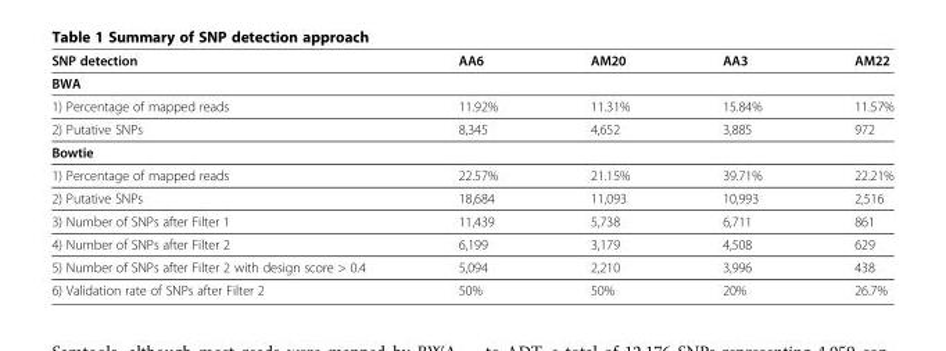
<table><thead><tr><td>SNP detection</td><td>AA6</td><td>AM20</td><td>AA3</td><td>AM22</td></tr></thead><tbody><tr><td colspan="5">BWA</td></tr><tr><td>1) Percentage of mapped reads</td><td>11.92%</td><td>11.31%</td><td>15.84%</td><td>11.57%</td></tr><tr><td>2) Putative SNPs</td><td>8,345</td><td>4,652</td><td>3,885</td><td>972</td></tr><tr><td colspan="5">Bowtie</td></tr><tr><td>1) Percentage of mapped reads</td><td>22.57%</td><td>21.15%</td><td>39.71%</td><td>22.21%</td></tr><tr><td>2) Putative SNPs</td><td>18,684</td><td>11,093</td><td>10,993</td><td>2,516</td></tr><tr><td>3) Number of SNPs after Filter 1</td><td>11,439</td><td>5,738</td><td>6,711</td><td>861</td></tr><tr><td>4) Number of SNPs after Filter 2</td><td>6,199</td><td>3,179</td><td>4,508</td><td>629</td></tr><tr><td>5) Number of SNPs after Filter 2 with design score &gt; 0.4</td><td>5,094</td><td>2,210</td><td>3,996</td><td>438</td></tr><tr><td>6) Validation rate of SNPs after Filter 2</td><td>50%</td><td>50%</td><td>20%</td><td>26.7%</td></tr></tbody></table>